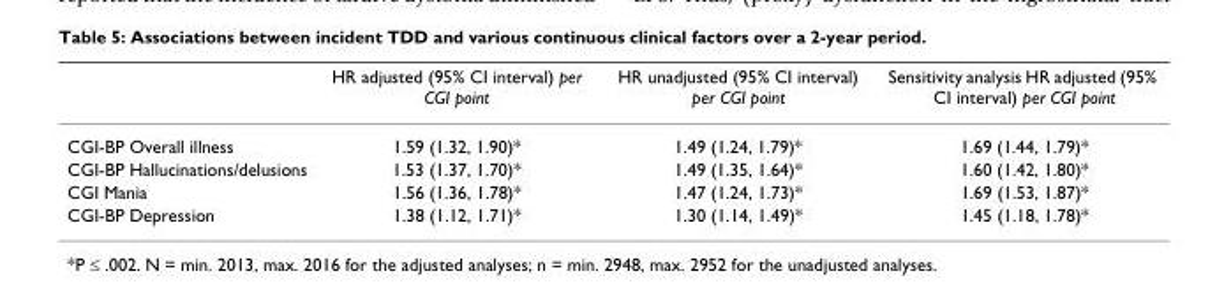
<table><thead><tr><td></td><td>HR adjusted (95% CI interval) per CGI point</td><td>HR unadjusted (95% CI interval) per CGI point</td><td>Sensitivity analysis HR adjusted (95% CI interval) per CGI point</td></tr></thead><tbody><tr><td>CGI-BP Overall illness</td><td>1.59 (1.32, 1.90)*</td><td>1.49 (1.24, 1.79)*</td><td>1.69 (1.44, 1.79)*</td></tr><tr><td>CGI-BP Hallucinations/delusions</td><td>1.53 (1.37, 1.70)*</td><td>1.49 (1.35, 1.64)*</td><td>1.60 (1.42, 1.80)*</td></tr><tr><td>CGI Mania</td><td>1.56 (1.36, 1.78)*</td><td>1.47 (1.24, 1.73)*</td><td>1.69 (1.53, 1.87)*</td></tr><tr><td>CGI-BP Depression</td><td>1.38 (1.12, 1.71)*</td><td>1.30 (1.14, 1.49)*</td><td>1.45 (1.18, 1.78)*</td></tr></tbody></table>